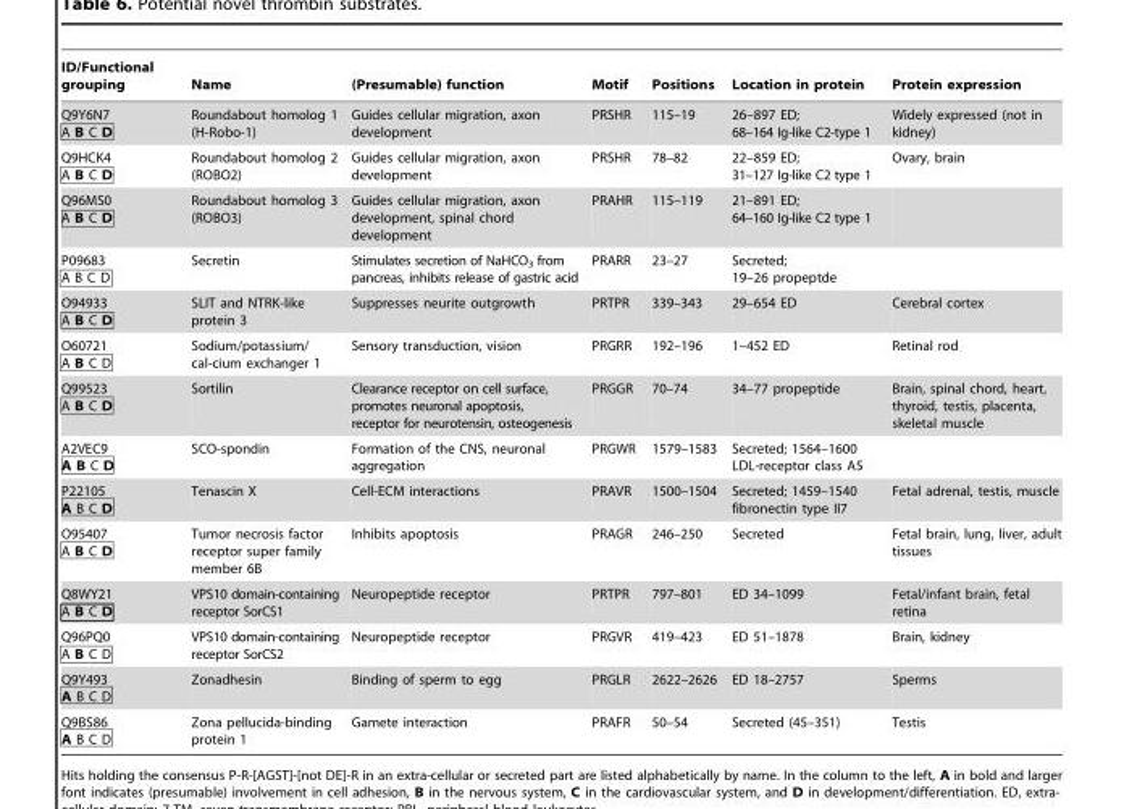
<table><thead><tr><td>ID/Functional grouping</td><td>Name</td><td>(Presumable) function</td><td>Motif</td><td>Positions</td><td>Location in protein</td><td>Protein expression</td></tr></thead><tbody><tr><td>Q9Y6N7 A B C D</td><td>Roundabout homolog 1 (H-Robo-1)</td><td>Guides cellular migration, axon development</td><td>PRSHR</td><td>115–19</td><td>26–897 ED; 68–164 Ig-like C2-type 1</td><td>Widely expressed (not in kidney)</td></tr><tr><td>Q9HCK4 A B C D</td><td>Roundabout homolog 2 (ROBO2)</td><td>Guides cellular migration, axon development</td><td>PRSHR</td><td>78–82</td><td>22–859 ED; 31–127 Ig-like C2 type 1</td><td>Ovary, brain</td></tr><tr><td>Q96MS0 A B C D</td><td>Roundabout homolog 3 (ROBO3)</td><td>Guides cellular migration, axon development, spinal chord development</td><td>PRAHR</td><td>115–119</td><td>21–891 ED; 64–160 Ig-like C2 type 1</td><td></td></tr><tr><td>P09683 A B C D</td><td>Secretin</td><td>Stimulates secretion of NaHCO<sub>3</sub> from pancreas, inhibits release of gastric acid</td><td>PRARR</td><td>23–27</td><td>Secreted; 19–26 propeptde</td><td></td></tr><tr><td>O94933 A B C D</td><td>SLIT and NTRK-like protein 3</td><td>Suppresses neurite outgrowth</td><td>PRTPR</td><td>339–343</td><td>29–654 ED</td><td>Cerebral cortex</td></tr><tr><td>O60721 A B C D</td><td>Sodium/potassium/ cal-cium exchanger 1</td><td>Sensory transduction, vision</td><td>PRGRR</td><td>192–196</td><td>1–452 ED</td><td>Retinal rod</td></tr><tr><td>Q99523 A B C D</td><td>Sortilin</td><td>Clearance receptor on cell surface, promotes neuronal apoptosis, receptor for neurotensin, osteogenesis</td><td>PRGGR</td><td>70–74</td><td>34–77 propeptide</td><td>Brain, spinal chord, heart, thyroid, testis, placenta, skeletal muscle</td></tr><tr><td>A2VEC9 A B C D</td><td>SCO-spondin</td><td>Formation of the CNS, neuronal aggregation</td><td>PRGWR</td><td>1579–1583</td><td>Secreted; 1564–1600 LDL-receptor class A5</td><td></td></tr><tr><td>P22105 A B C D</td><td>Tenascin X</td><td>Cell-ECM interactions</td><td>PRAVR</td><td>1500–1504</td><td>Secreted; 1459–1540 fibronectin type II7</td><td>Fetal adrenal, testis, muscle</td></tr><tr><td>O95407 A B C D</td><td>Tumor necrosis factor receptor super family member 6B</td><td>Inhibits apoptosis</td><td>PRAGR</td><td>246–250</td><td>Secreted</td><td>Fetal brain, lung, liver, adult tissues</td></tr><tr><td>Q8WY21 A B C D</td><td>VPS10 domain-containing receptor SorCS1</td><td>Neuropeptide receptor</td><td>PRTPR</td><td>797–801</td><td>ED 34–1099</td><td>Fetal/infant brain, fetal retina</td></tr><tr><td>Q96PQ0 A B C D</td><td>VPS10 domain-containing receptor SorCS2</td><td>Neuropeptide receptor</td><td>PRGVR</td><td>419–423</td><td>ED 51–1878</td><td>Brain, kidney</td></tr><tr><td>Q9Y493 A B C D</td><td>Zonadhesin</td><td>Binding of sperm to egg</td><td>PRGLR</td><td>2622–2626</td><td>ED 18–2757</td><td>Sperms</td></tr><tr><td>Q9BS86 A B C D</td><td>Zona pellucida-binding protein 1</td><td>Gamete interaction</td><td>PRAFR</td><td>50–54</td><td>Secreted (45–351)</td><td>Testis</td></tr></tbody></table>